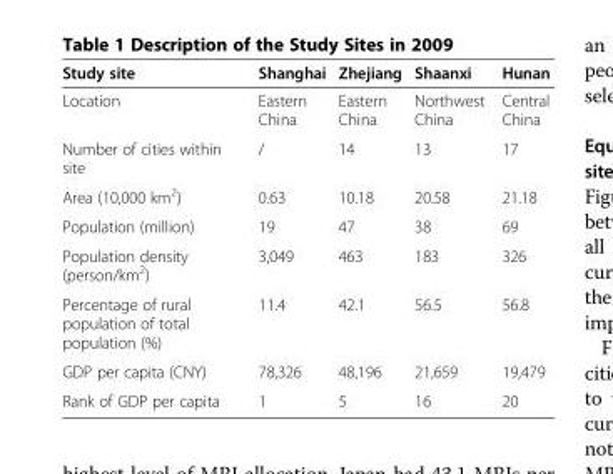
<table><thead><tr><td>Study site</td><td>Shanghai</td><td>Zhejiang</td><td>Shaanxi</td><td>Hunan</td></tr></thead><tbody><tr><td>Location</td><td>Eastern China</td><td>Eastern China</td><td>Northwest China</td><td>Central China</td></tr><tr><td>Number of cities within site</td><td>/</td><td>14</td><td>13</td><td>17</td></tr><tr><td>Area (10,000 km<sup>2</sup>)</td><td>0.63</td><td>10.18</td><td>20.58</td><td>21.18</td></tr><tr><td>Population (million)</td><td>19</td><td>47</td><td>38</td><td>69</td></tr><tr><td>Population density (person/km<sup>2</sup>)</td><td>3,049</td><td>463</td><td>183</td><td>326</td></tr><tr><td>Percentage of rural population of total population (%)</td><td>11.4</td><td>42.1</td><td>56.5</td><td>56.8</td></tr><tr><td>GDP per capita (CNY)</td><td>78,326</td><td>48,196</td><td>21,659</td><td>19,479</td></tr><tr><td>Rank of GDP per capita</td><td>1</td><td>5</td><td>16</td><td>20</td></tr></tbody></table>